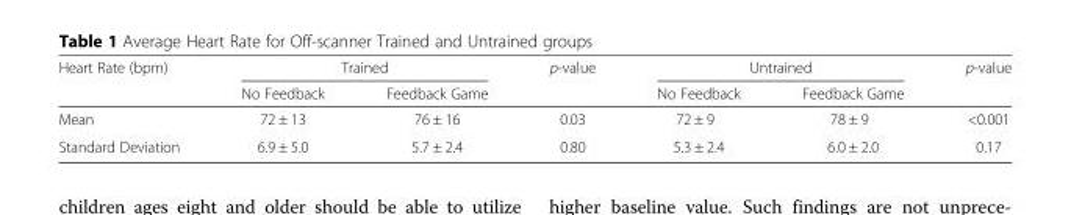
<table><thead><tr><td rowspan="2">Heart Rate (bpm)</td><td colspan="2">Trained</td><td rowspan="2">p-value</td><td colspan="2">Untrained</td><td rowspan="2">p-value</td></tr><tr><td>No Feedback</td><td>Feedback Game</td><td>No Feedback</td><td>Feedback Game</td></tr></thead><tbody><tr><td>Mean</td><td>72 ± 13</td><td>76 ± 16</td><td>0.03</td><td>72 ± 9</td><td>78 ± 9</td><td>&lt;0.001</td></tr><tr><td>Standard Deviation</td><td>6.9 ± 5.0</td><td>5.7 ± 2.4</td><td>0.80</td><td>5.3 ± 2.4</td><td>6.0 ± 2.0</td><td>0.17</td></tr></tbody></table>